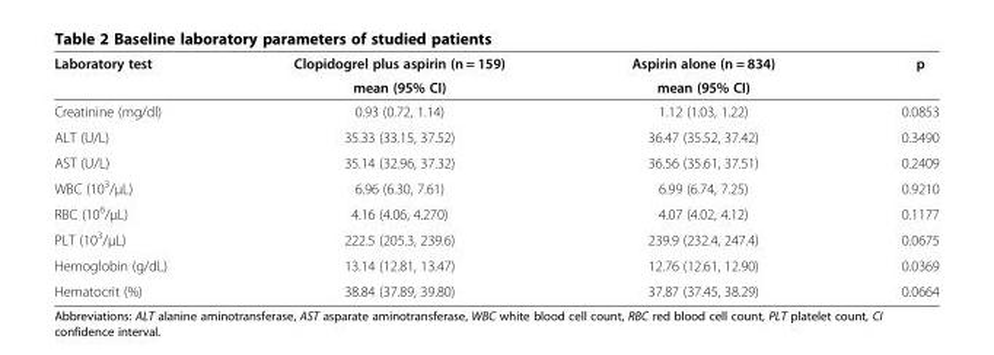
<table><thead><tr><td rowspan="2">Laboratory test</td><td rowspan="2">Clopidogrel plus aspirin (n = 159) mean (95% CI)</td><td rowspan="2">Aspirin alone (n = 834) mean (95% CI)</td><td rowspan="2">p</td></tr><tr></tr></thead><tbody><tr><td>Creatinine (mg/dl)</td><td>0.93 (0.72, 1.14)</td><td>1.12 (1.03, 1.22)</td><td>0.0853</td></tr><tr><td>ALT (U/L)</td><td>35.33 (33.15, 37.52)</td><td>36.47 (35.52, 37.42)</td><td>0.3490</td></tr><tr><td>AST (U/L)</td><td>35.14 (32.96, 37.32)</td><td>36.56 (35.61, 37.51)</td><td>0.2409</td></tr><tr><td>WBC (10<sup>3</sup>/μL)</td><td>6.96 (6.30, 7.61)</td><td>6.99 (6.74, 7.25)</td><td>0.9210</td></tr><tr><td>RBC (10<sup>6</sup>/μL)</td><td>4.16 (4.06, 4.270)</td><td>4.07 (4.02, 4.12)</td><td>0.1177</td></tr><tr><td>PLT (10<sup>3</sup>/μL)</td><td>222.5 (205.3, 239.6)</td><td>239.9 (232.4, 247.4)</td><td>0.0675</td></tr><tr><td>Hemoglobin (g/dL)</td><td>13.14 (12.81, 13.47)</td><td>12.76 (12.61, 12.90)</td><td>0.0369</td></tr><tr><td>Hematocrit (%)</td><td>38.84 (37.89, 39.80)</td><td>37.87 (37.45, 38.29)</td><td>0.0664</td></tr></tbody></table>